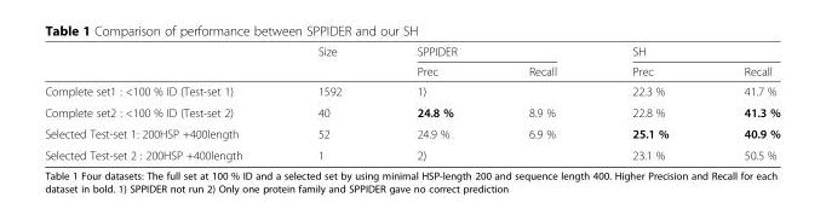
<table><thead><tr><td rowspan="2"></td><td rowspan="2">Size</td><td colspan="2">SPPIDER</td><td colspan="2">SH</td></tr><tr><td>Prec</td><td>Recall</td><td>Prec</td><td>Recall</td></tr></thead><tbody><tr><td>Complete set1 : &lt;100 % ID (Test-set 1)</td><td>1592</td><td colspan="2">1)</td><td>22.3 %</td><td>41.7 %</td></tr><tr><td>Complete set2 : &lt;100 % ID (Test-set 2)</td><td>40</td><td>24.8 %</td><td>8.9 %</td><td>22.8 %</td><td>41.3 %</td></tr><tr><td>Selected Test-set 1: 200HSP +400length</td><td>52</td><td>24.9 %</td><td>6.9 %</td><td>25.1 %</td><td>40.9 %</td></tr><tr><td>Selected Test-set 2 : 200HSP +400length</td><td>1</td><td colspan="2">2)</td><td>23.1 %</td><td>50.5 %</td></tr></tbody></table>